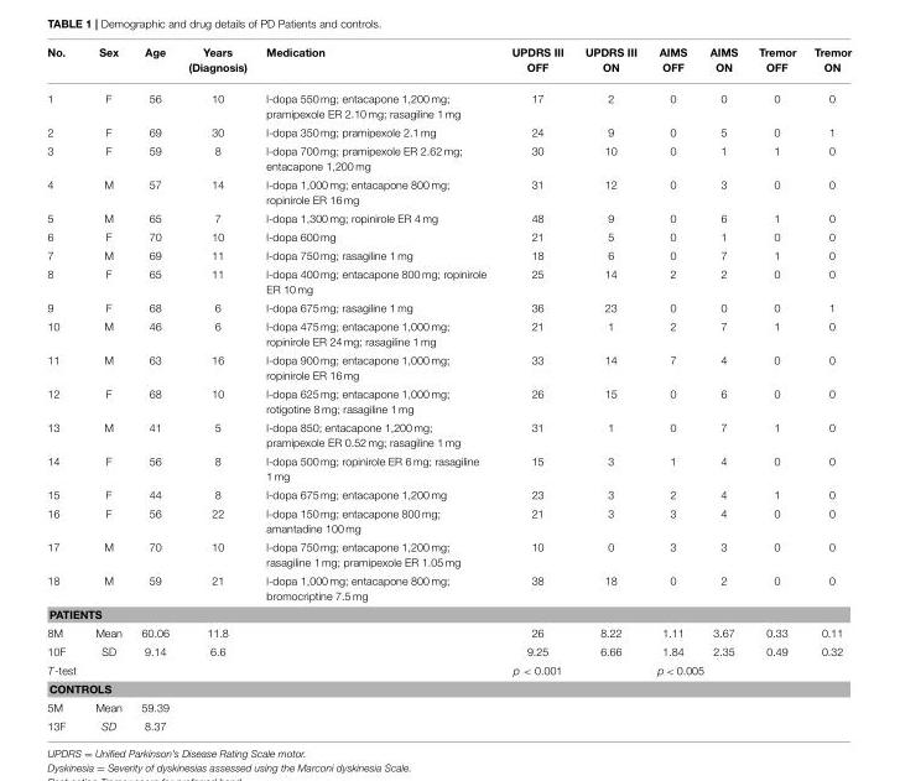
<table><thead><tr><td>No.</td><td>Sex</td><td>Age</td><td>Years (Diagnosis)</td><td>Medication</td><td>UPDRS III OFF</td><td>UPDRS III ON</td><td>AIMS OFF</td><td>AIMS ON</td><td>Tremor OFF</td><td>Tremor ON</td></tr></thead><tbody><tr><td>1</td><td>F</td><td>56</td><td>10</td><td>l-dopa 550 mg; entacapone 1,200 mg; pramipexole ER 2.10 mg; rasagiline 1 mg</td><td>17</td><td>2</td><td>0</td><td>0</td><td>0</td><td>0</td></tr><tr><td>2</td><td>F</td><td>69</td><td>30</td><td>l-dopa 350 mg; pramipexole 2.1 mg</td><td>24</td><td>9</td><td>0</td><td>5</td><td>0</td><td>1</td></tr><tr><td>3</td><td>F</td><td>59</td><td>8</td><td>l-dopa 700 mg; pramipexole ER 2.62 mg; entacapone 1,200 mg</td><td>30</td><td>10</td><td>0</td><td>1</td><td>1</td><td>0</td></tr><tr><td>4</td><td>M</td><td>57</td><td>14</td><td>l-dopa 1,000 mg; entacapone 800 mg; ropinirole ER 16 mg</td><td>31</td><td>12</td><td>0</td><td>3</td><td>0</td><td>0</td></tr><tr><td>5</td><td>M</td><td>65</td><td>7</td><td>l-dopa 1,300 mg; ropinirole ER 4 mg</td><td>48</td><td>9</td><td>0</td><td>6</td><td>1</td><td>0</td></tr><tr><td>6</td><td>F</td><td>70</td><td>10</td><td>l-dopa 600 mg</td><td>21</td><td>5</td><td>0</td><td>1</td><td>0</td><td>0</td></tr><tr><td>7</td><td>M</td><td>69</td><td>11</td><td>l-dopa 750 mg; rasagiline 1 mg</td><td>18</td><td>6</td><td>0</td><td>7</td><td>1</td><td>0</td></tr><tr><td>8</td><td>F</td><td>65</td><td>11</td><td>l-dopa 400 mg; entacapone 800 mg; ropinirole ER 10 mg</td><td>25</td><td>14</td><td>2</td><td>2</td><td>0</td><td>0</td></tr><tr><td>9</td><td>F</td><td>68</td><td>6</td><td>l-dopa 675 mg; rasagiline 1 mg</td><td>36</td><td>23</td><td>0</td><td>0</td><td>0</td><td>1</td></tr><tr><td>10</td><td>M</td><td>46</td><td>6</td><td>l-dopa 475 mg; entacapone 1,000 mg; ropinirole ER 24 mg; rasagiline 1 mg</td><td>21</td><td>1</td><td>2</td><td>7</td><td>1</td><td>0</td></tr><tr><td>11</td><td>M</td><td>63</td><td>16</td><td>l-dopa 900 mg; entacapone 1,000 mg; ropinirole ER 16 mg</td><td>33</td><td>14</td><td>7</td><td>4</td><td>0</td><td>0</td></tr><tr><td>12</td><td>F</td><td>68</td><td>10</td><td>l-dopa 625 mg; entacapone 1,000 mg; rotigotine 8 mg; rasagiline 1 mg</td><td>26</td><td>15</td><td>0</td><td>6</td><td>0</td><td>0</td></tr><tr><td>13</td><td>M</td><td>41</td><td>5</td><td>l-dopa 850; entacapone 1,200 mg; pramipexole ER 0.52 mg; rasagiline 1 mg</td><td>31</td><td>1</td><td>0</td><td>7</td><td>1</td><td>0</td></tr><tr><td>14</td><td>F</td><td>56</td><td>8</td><td>l-dopa 500 mg; ropinirole ER 6 mg; rasagiline 1 mg</td><td>15</td><td>3</td><td>1</td><td>4</td><td>0</td><td>0</td></tr><tr><td>15</td><td>F</td><td>44</td><td>8</td><td>l-dopa 675 mg; entacapone 1,200 mg</td><td>23</td><td>3</td><td>2</td><td>4</td><td>1</td><td>0</td></tr><tr><td>16</td><td>F</td><td>56</td><td>22</td><td>l-dopa 150 mg; entacapone 800 mg; amantadine 100 mg</td><td>21</td><td>3</td><td>3</td><td>4</td><td>0</td><td>0</td></tr><tr><td>17</td><td>M</td><td>70</td><td>10</td><td>l-dopa 750 mg; entacapone 1,200 mg; rasagiline 1 mg; pramipexole ER 1.05 mg</td><td>10</td><td>0</td><td>3</td><td>3</td><td>0</td><td>0</td></tr><tr><td>18</td><td>M</td><td>59</td><td>21</td><td>l-dopa 1,000 mg; entacapone 800 mg; bromocriptine 7.5 mg</td><td>38</td><td>18</td><td>0</td><td>2</td><td>0</td><td>0</td></tr><tr><td colspan="11">PATIENTS</td></tr><tr><td>8M</td><td>Mean</td><td>60.06</td><td>11.8</td><td></td><td>26</td><td>8.22</td><td>1.11</td><td>3.67</td><td>0.33</td><td>0.11</td></tr><tr><td>10F</td><td>SD</td><td>9.14</td><td>6.6</td><td></td><td>9.25</td><td>6.66</td><td>1.84</td><td>2.35</td><td>0.49</td><td>0.32</td></tr><tr><td>T-test</td><td></td><td></td><td></td><td></td><td>p &lt; 0.001</td><td></td><td>p &lt; 0.005</td><td></td><td></td><td></td></tr><tr><td colspan="11">CONTROLS</td></tr><tr><td>5M</td><td>Mean</td><td>59.39</td><td></td><td></td><td></td><td></td><td></td><td></td><td></td><td></td></tr><tr><td>13F</td><td>SD</td><td>8.37</td><td></td><td></td><td></td><td></td><td></td><td></td><td></td><td></td></tr></tbody></table>